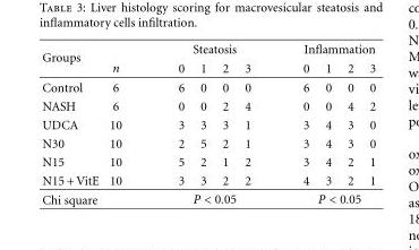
<table><thead><tr><td rowspan="2">Groups</td><td rowspan="2">n</td><td colspan="4">Steatosis</td><td colspan="4">Inflammation</td></tr><tr><td>0</td><td>1</td><td>2</td><td>3</td><td>0</td><td>1</td><td>2</td><td>3</td></tr></thead><tbody><tr><td>Control</td><td>6</td><td>6</td><td>0</td><td>0</td><td>0</td><td>6</td><td>0</td><td>0</td><td>0</td></tr><tr><td>NASH</td><td>6</td><td>0</td><td>0</td><td>2</td><td>4</td><td>0</td><td>0</td><td>4</td><td>2</td></tr><tr><td>UDCA</td><td>10</td><td>3</td><td>3</td><td>3</td><td>1</td><td>3</td><td>4</td><td>3</td><td>0</td></tr><tr><td>N30</td><td>10</td><td>2</td><td>5</td><td>2</td><td>1</td><td>3</td><td>4</td><td>3</td><td>0</td></tr><tr><td>N15</td><td>10</td><td>5</td><td>2</td><td>1</td><td>2</td><td>3</td><td>4</td><td>2</td><td>1</td></tr><tr><td>N15 + VitE</td><td>10</td><td>3</td><td>3</td><td>2</td><td>2</td><td>4</td><td>3</td><td>2</td><td>1</td></tr><tr><td>Chi square</td><td></td><td colspan="4">P &lt; 0.05</td><td colspan="4">P &lt; 0.05</td></tr></tbody></table>